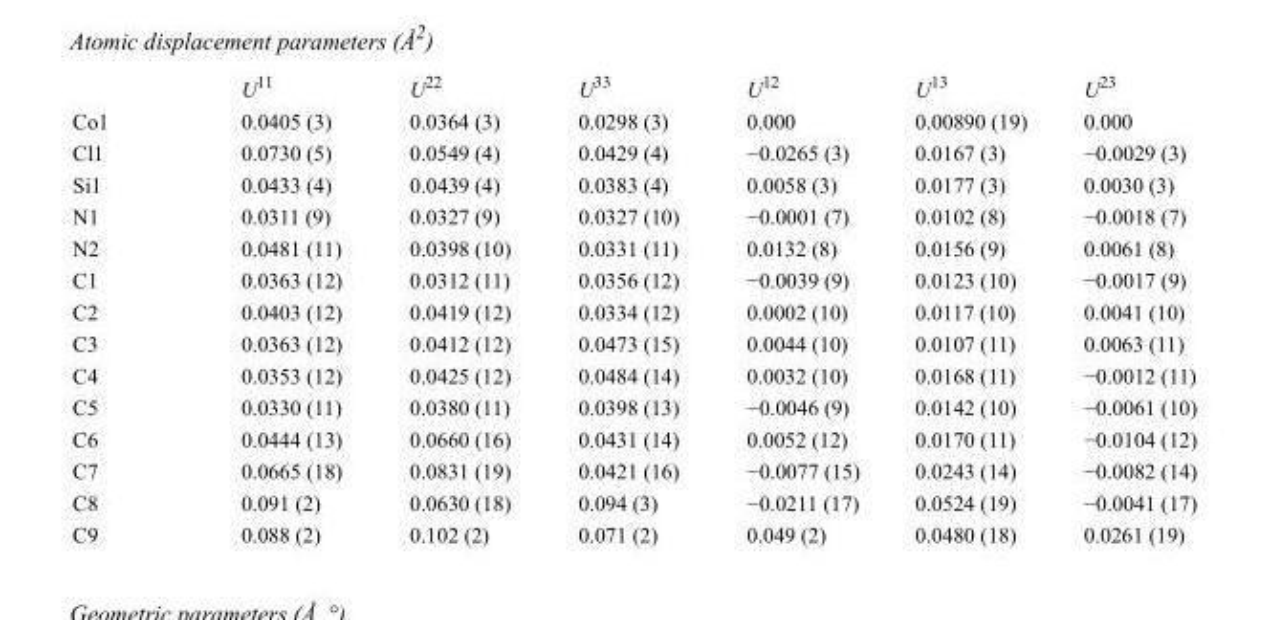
<table><thead><tr><td></td><td>U<sup>11</sup></td><td>U<sup>22</sup></td><td>U<sup>33</sup></td><td>U<sup>12</sup></td><td>U<sup>13</sup></td><td>U<sup>23</sup></td></tr></thead><tbody><tr><td>Co1</td><td>0.0405 (3)</td><td>0.0364 (3)</td><td>0.0298 (3)</td><td>0.000</td><td>0.00890 (19)</td><td>0.000</td></tr><tr><td>Cl1</td><td>0.0730 (5)</td><td>0.0549 (4)</td><td>0.0429 (4)</td><td>−0.0265 (3)</td><td>0.0167 (3)</td><td>−0.0029 (3)</td></tr><tr><td>Si1</td><td>0.0433 (4)</td><td>0.0439 (4)</td><td>0.0383 (4)</td><td>0.0058 (3)</td><td>0.0177 (3)</td><td>0.0030 (3)</td></tr><tr><td>N1</td><td>0.0311 (9)</td><td>0.0327 (9)</td><td>0.0327 (10)</td><td>−0.0001 (7)</td><td>0.0102 (8)</td><td>−0.0018 (7)</td></tr><tr><td>N2</td><td>0.0481 (11)</td><td>0.0398 (10)</td><td>0.0331 (11)</td><td>0.0132 (8)</td><td>0.0156 (9)</td><td>0.0061 (8)</td></tr><tr><td>C1</td><td>0.0363 (12)</td><td>0.0312 (11)</td><td>0.0356 (12)</td><td>−0.0039 (9)</td><td>0.0123 (10)</td><td>−0.0017 (9)</td></tr><tr><td>C2</td><td>0.0403 (12)</td><td>0.0419 (12)</td><td>0.0334 (12)</td><td>0.0002 (10)</td><td>0.0117 (10)</td><td>0.0041 (10)</td></tr><tr><td>C3</td><td>0.0363 (12)</td><td>0.0412 (12)</td><td>0.0473 (15)</td><td>0.0044 (10)</td><td>0.0107 (11)</td><td>0.0063 (11)</td></tr><tr><td>C4</td><td>0.0353 (12)</td><td>0.0425 (12)</td><td>0.0484 (14)</td><td>0.0032 (10)</td><td>0.0168 (11)</td><td>−0.0012 (11)</td></tr><tr><td>C5</td><td>0.0330 (11)</td><td>0.0380 (11)</td><td>0.0398 (13)</td><td>−0.0046 (9)</td><td>0.0142 (10)</td><td>−0.0061 (10)</td></tr><tr><td>C6</td><td>0.0444 (13)</td><td>0.0660 (16)</td><td>0.0431 (14)</td><td>0.0052 (12)</td><td>0.0170 (11)</td><td>−0.0104 (12)</td></tr><tr><td>C7</td><td>0.0665 (18)</td><td>0.0831 (19)</td><td>0.0421 (16)</td><td>−0.0077 (15)</td><td>0.0243 (14)</td><td>−0.0082 (14)</td></tr><tr><td>C8</td><td>0.091 (2)</td><td>0.0630 (18)</td><td>0.094 (3)</td><td>−0.0211 (17)</td><td>0.0524 (19)</td><td>−0.0041 (17)</td></tr><tr><td>C9</td><td>0.088 (2)</td><td>0.102 (2)</td><td>0.071 (2)</td><td>0.049 (2)</td><td>0.0480 (18)</td><td>0.0261 (19)</td></tr></tbody></table>